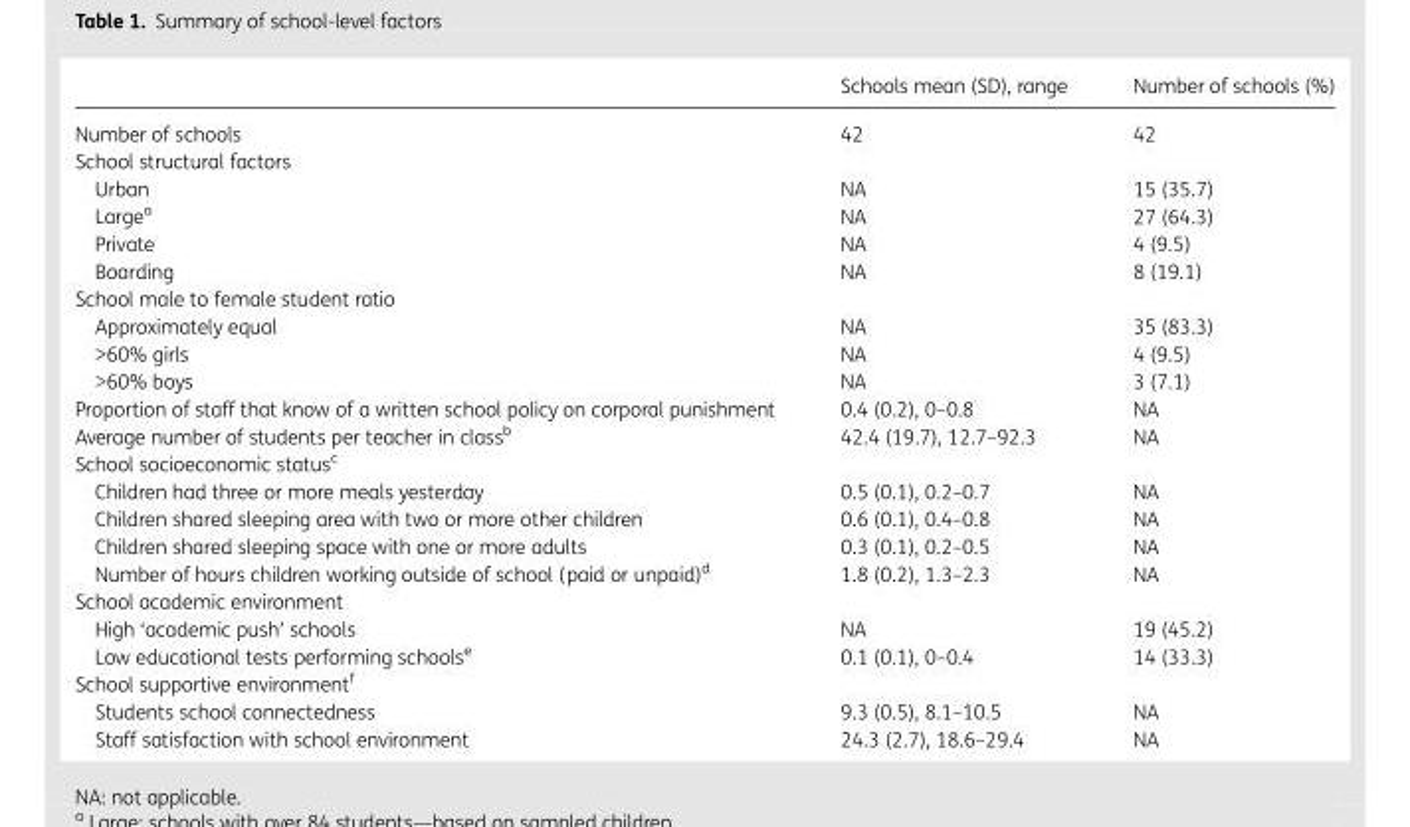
<table><thead><tr><td></td><td>Schools mean (SD), range</td><td>Number of schools (%)</td></tr></thead><tbody><tr><td>Number of schools</td><td>42</td><td>42</td></tr><tr><td colspan="3">School structural factors</td></tr><tr><td>Urban</td><td>NA</td><td>15 (35.7)</td></tr><tr><td>Large<sup>a</sup></td><td>NA</td><td>27 (64.3)</td></tr><tr><td>Private</td><td>NA</td><td>4 (9.5)</td></tr><tr><td>Boarding</td><td>NA</td><td>8 (19.1)</td></tr><tr><td colspan="3">School male to female student ratio</td></tr><tr><td>Approximately equal</td><td>NA</td><td>35 (83.3)</td></tr><tr><td>&gt;60% girls</td><td>NA</td><td>4 (9.5)</td></tr><tr><td>&gt;60% boys</td><td>NA</td><td>3 (7.1)</td></tr><tr><td>Proportion of staff that know of a written school policy on corporal punishment</td><td>0.4 (0.2), 0–0.8</td><td>NA</td></tr><tr><td>Average number of students per teacher in class<sup>b</sup></td><td>42.4 (19.7), 12.7–92.3</td><td>NA</td></tr><tr><td colspan="3">School socioeconomic status<sup>c</sup></td></tr><tr><td>Children had three or more meals yesterday</td><td>0.5 (0.1), 0.2–0.7</td><td>NA</td></tr><tr><td>Children shared sleeping area with two or more other children</td><td>0.6 (0.1), 0.4–0.8</td><td>NA</td></tr><tr><td>Children shared sleeping space with one or more adults</td><td>0.3 (0.1), 0.2–0.5</td><td>NA</td></tr><tr><td>Number of hours children working outside of school (paid or unpaid)<sup>d</sup></td><td>1.8 (0.2), 1.3–2.3</td><td>NA</td></tr><tr><td colspan="3">School academic environment</td></tr><tr><td>High ‘academic push’ schools</td><td>NA</td><td>19 (45.2)</td></tr><tr><td>Low educational tests performing schools<sup>e</sup></td><td>0.1 (0.1), 0–0.4</td><td>14 (33.3)</td></tr><tr><td colspan="3">School supportive environment<sup>f</sup></td></tr><tr><td>Students school connectedness</td><td>9.3 (0.5), 8.1–10.5</td><td>NA</td></tr><tr><td>Staff satisfaction with school environment</td><td>24.3 (2.7), 18.6–29.4</td><td>NA</td></tr></tbody></table>